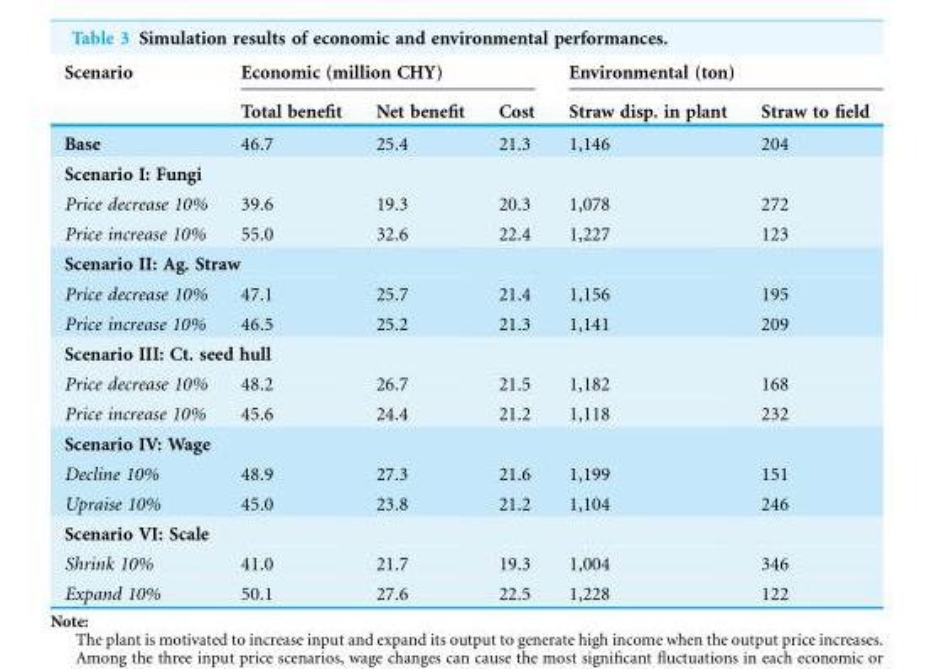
<table><thead><tr><td rowspan="2">Scenario</td><td colspan="3">Economic (million CHY)</td><td colspan="2">Environmental (ton)</td></tr><tr><td>Total benefit</td><td>Net benefit</td><td>Cost</td><td>Straw disp. in plant</td><td>Straw to field</td></tr></thead><tbody><tr><td>Base</td><td>46.7</td><td>25.4</td><td>21.3</td><td>1,146</td><td>204</td></tr><tr><td colspan="6">Scenario I: Fungi</td></tr><tr><td>Price decrease 10%</td><td>39.6</td><td>19.3</td><td>20.3</td><td>1,078</td><td>272</td></tr><tr><td>Price increase 10%</td><td>55.0</td><td>32.6</td><td>22.4</td><td>1,227</td><td>123</td></tr><tr><td colspan="6">Scenario II: Ag. Straw</td></tr><tr><td>Price decrease 10%</td><td>47.1</td><td>25.7</td><td>21.4</td><td>1,156</td><td>195</td></tr><tr><td>Price increase 10%</td><td>46.5</td><td>25.2</td><td>21.3</td><td>1,141</td><td>209</td></tr><tr><td colspan="6">Scenario III: Ct. seed hull</td></tr><tr><td>Price decrease 10%</td><td>48.2</td><td>26.7</td><td>21.5</td><td>1,182</td><td>168</td></tr><tr><td>Price increase 10%</td><td>45.6</td><td>24.4</td><td>21.2</td><td>1,118</td><td>232</td></tr><tr><td colspan="6">Scenario IV: Wage</td></tr><tr><td>Decline 10%</td><td>48.9</td><td>27.3</td><td>21.6</td><td>1,199</td><td>151</td></tr><tr><td>Upraise 10%</td><td>45.0</td><td>23.8</td><td>21.2</td><td>1,104</td><td>246</td></tr><tr><td colspan="6">Scenario VI: Scale</td></tr><tr><td>Shrink 10%</td><td>41.0</td><td>21.7</td><td>19.3</td><td>1,004</td><td>346</td></tr><tr><td>Expand 10%</td><td>50.1</td><td>27.6</td><td>22.5</td><td>1,228</td><td>122</td></tr></tbody></table>